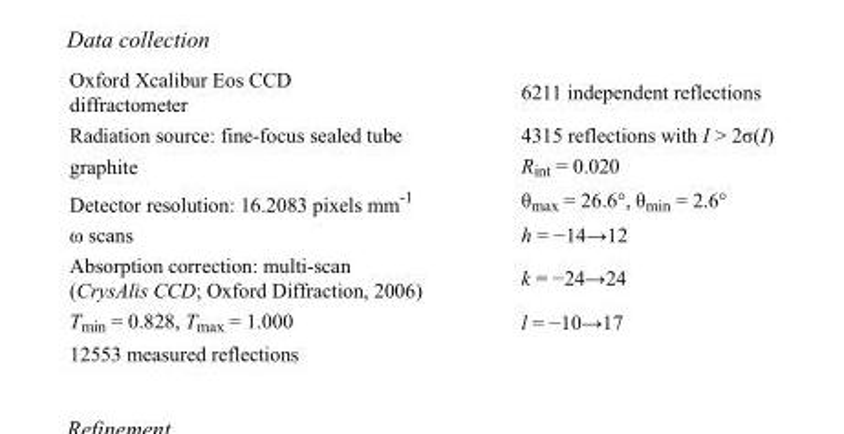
<table><tbody><tr><td>Oxford Xcalibur Eos CCD diffractometer</td><td>6211 independent reflections</td></tr><tr><td>Radiation source: fine-focus sealed tube</td><td>4315 reflections with I &gt; 2σ(I)</td></tr><tr><td>graphite</td><td>R<sub>int</sub> = 0.020</td></tr><tr><td>Detector resolution: 16.2083 pixels mm<sup>-1</sup></td><td>θ<sub>max</sub> = 26.6°, θ<sub>min</sub> = 2.6°</td></tr><tr><td>ω scans</td><td>h = −14→12</td></tr><tr><td>Absorption correction: multi-scan (CrysAlis CCD; Oxford Diffraction, 2006)</td><td>k = −24→24</td></tr><tr><td>T<sub>min</sub> = 0.828, T<sub>max</sub> = 1.000</td><td>l = −10→17</td></tr><tr><td>12553 measured reflections</td><td></td></tr></tbody></table>